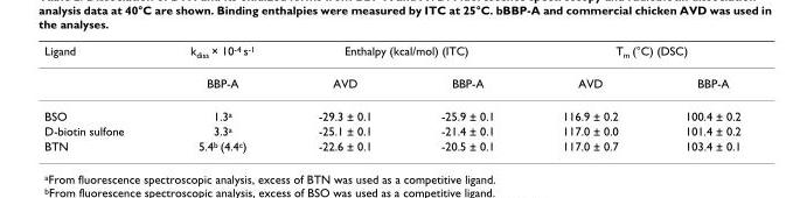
<table><thead><tr><td rowspan="2">Ligand</td><td rowspan="2">kdiss × 10-4 s-1 BBP-A</td><td colspan="2">Enthalpy (kcal/mol) (ITC)</td><td colspan="2">Tm (°C) (DSC)</td></tr><tr><td>AVD</td><td>BBP-A</td><td>AVD</td><td>BBP-A</td></tr></thead><tbody><tr><td>BSO</td><td>1.3<sup>a</sup></td><td>-29.3 ± 0.1</td><td>-25.9 ± 0.1</td><td>116.9 ± 0.2</td><td>100.4 ± 0.2</td></tr><tr><td>D-biotin sulfone</td><td>3.3<sup>a</sup></td><td>-25.1 ± 0.1</td><td>-21.4 ± 0.1</td><td>117.0 ± 0.0</td><td>101.4 ± 0.2</td></tr><tr><td>BTN</td><td>5.4<sup>b</sup> (4.4<sup>c</sup>)</td><td>-22.6 ± 0.1</td><td>-20.5 ± 0.1</td><td>117.0 ± 0.7</td><td>103.4 ± 0.1</td></tr></tbody></table>